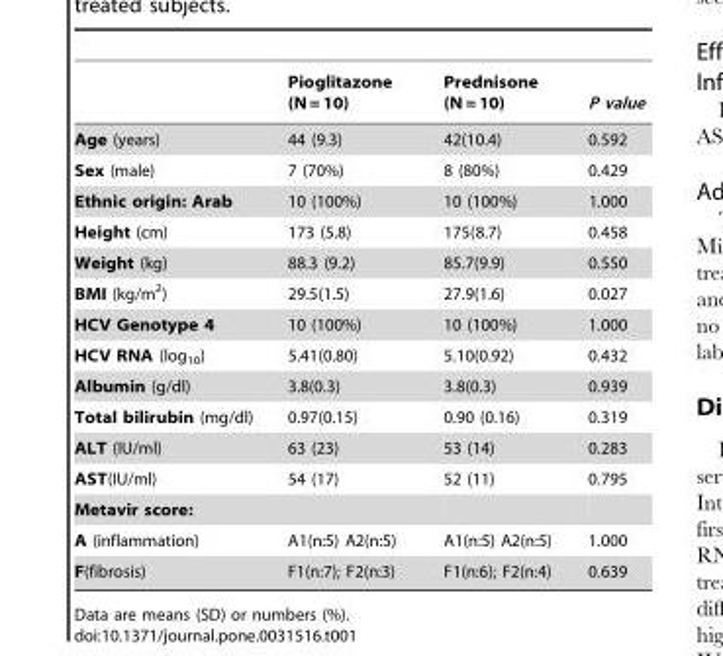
<table><thead><tr><td></td><td>Pioglitazone (N = 10)</td><td>Prednisone (N = 10)</td><td>P value</td></tr></thead><tbody><tr><td>Age (years)</td><td>44 (9.3)</td><td>42(10.4)</td><td>0.592</td></tr><tr><td>Sex (male)</td><td>7 (70%)</td><td>8 (80%)</td><td>0.429</td></tr><tr><td>Ethnic origin: Arab</td><td>10 (100%)</td><td>10 (100%)</td><td>1.000</td></tr><tr><td>Height (cm)</td><td>173 (5.8)</td><td>175(8.7)</td><td>0.458</td></tr><tr><td>Weight (kg)</td><td>88.3 (9.2)</td><td>85.7(9.9)</td><td>0.550</td></tr><tr><td>BMI (kg/m<sup>2</sup>)</td><td>29.5(1.5)</td><td>27.9(1.6)</td><td>0.027</td></tr><tr><td>HCV Genotype 4</td><td>10 (100%)</td><td>10 (100%)</td><td>1.000</td></tr><tr><td>HCV RNA (log<sub>10</sub>)</td><td>5.41(0.80)</td><td>5.10(0.92)</td><td>0.432</td></tr><tr><td>Albumin (g/dl)</td><td>3.8(0.3)</td><td>3.8(0.3)</td><td>0.939</td></tr><tr><td>Total bilirubin (mg/dl)</td><td>0.97(0.15)</td><td>0.90 (0.16)</td><td>0.319</td></tr><tr><td>ALT (IU/ml)</td><td>63 (23)</td><td>53 (14)</td><td>0.283</td></tr><tr><td>AST(IU/ml)</td><td>54 (17)</td><td>52 (11)</td><td>0.795</td></tr><tr><td colspan="4">Metavir score:</td></tr><tr><td>A (inflammation)</td><td>A1(n:5) A2(n:5)</td><td>A1(n:5) A2(n:5)</td><td>1.000</td></tr><tr><td>F(fibrosis)</td><td>F1(n:7); F2(n:3)</td><td>F1(n:6); F2(n:4)</td><td>0.639</td></tr></tbody></table>